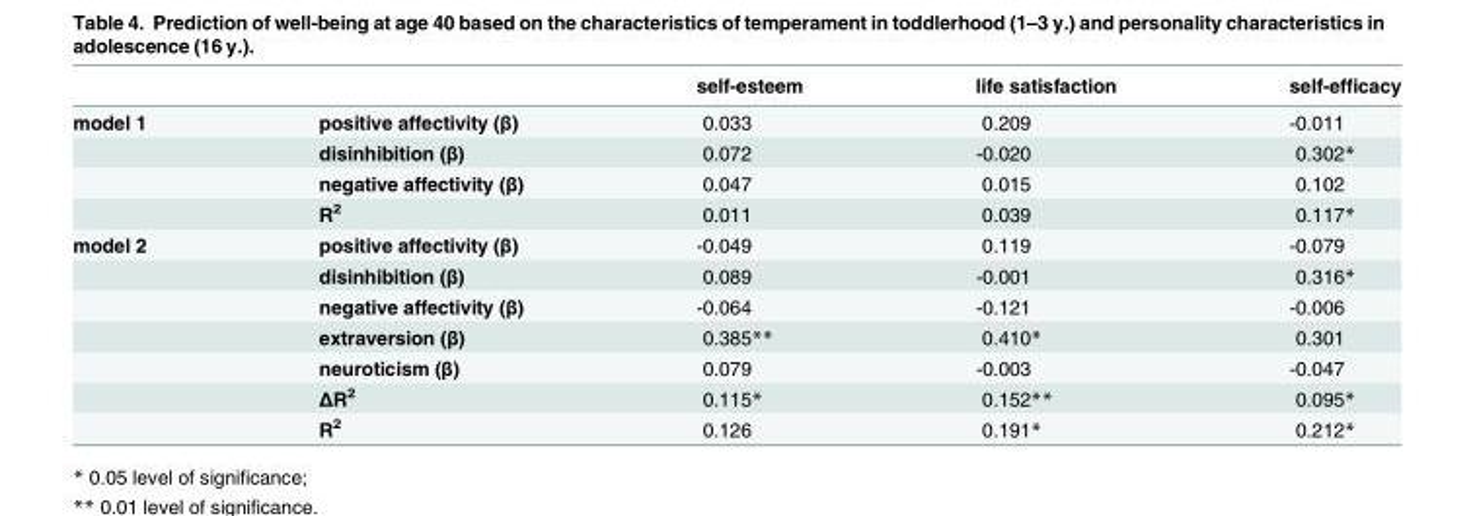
<table><thead><tr><td></td><td></td><td>self-esteem</td><td>life satisfaction</td><td>self-efficacy</td></tr></thead><tbody><tr><td rowspan="4">model 1</td><td>positive affectivity (β)</td><td>0.033</td><td>0.209</td><td>-0.011</td></tr><tr><td>disinhibition (β)</td><td>0.072</td><td>-0.020</td><td>0.302*</td></tr><tr><td>negative affectivity (β)</td><td>0.047</td><td>0.015</td><td>0.102</td></tr><tr><td>R<sup>2</sup></td><td>0.011</td><td>0.039</td><td>0.117*</td></tr><tr><td rowspan="7">model 2</td><td>positive affectivity (β)</td><td>-0.049</td><td>0.119</td><td>-0.079</td></tr><tr><td>disinhibition (β)</td><td>0.089</td><td>-0.001</td><td>0.316*</td></tr><tr><td>negative affectivity (β)</td><td>-0.064</td><td>-0.121</td><td>-0.006</td></tr><tr><td>extraversion (β)</td><td>0.385**</td><td>0.410*</td><td>0.301</td></tr><tr><td>neuroticism (β)</td><td>0.079</td><td>-0.003</td><td>-0.047</td></tr><tr><td>ΔR<sup>2</sup></td><td>0.115*</td><td>0.152**</td><td>0.095*</td></tr><tr><td>R<sup>2</sup></td><td>0.126</td><td>0.191*</td><td>0.212*</td></tr></tbody></table>